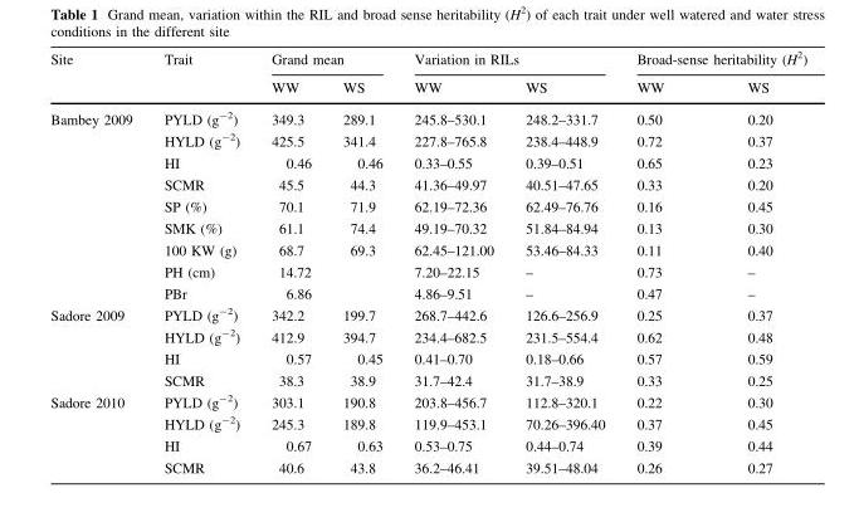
<table><thead><tr><td rowspan="2">Site</td><td rowspan="2">Trait</td><td colspan="2">Grand mean</td><td colspan="2">Variation in RILs</td><td colspan="2">Broad-sense heritability (H<sup>2</sup>)</td></tr><tr><td>WW</td><td>WS</td><td>WW</td><td>WS</td><td>WW</td><td>WS</td></tr></thead><tbody><tr><td rowspan="9">Bambey 2009</td><td>PYLD (g<sup>-2</sup>)</td><td>349.3</td><td>289.1</td><td>245.8–530.1</td><td>248.2–331.7</td><td>0.50</td><td>0.20</td></tr><tr><td>HYLD (g<sup>-2</sup>)</td><td>425.5</td><td>341.4</td><td>227.8–765.8</td><td>238.4–448.9</td><td>0.72</td><td>0.37</td></tr><tr><td>HI</td><td>0.46</td><td>0.46</td><td>0.33–0.55</td><td>0.39–0.51</td><td>0.65</td><td>0.23</td></tr><tr><td>SCMR</td><td>45.5</td><td>44.3</td><td>41.36–49.97</td><td>40.51–47.65</td><td>0.33</td><td>0.20</td></tr><tr><td>SP (%)</td><td>70.1</td><td>71.9</td><td>62.19–72.36</td><td>62.49–76.76</td><td>0.16</td><td>0.45</td></tr><tr><td>SMK (%)</td><td>61.1</td><td>74.4</td><td>49.19–70.32</td><td>51.84–84.94</td><td>0.13</td><td>0.30</td></tr><tr><td>100 KW (g)</td><td>68.7</td><td>69.3</td><td>62.45–121.00</td><td>53.46–84.33</td><td>0.11</td><td>0.40</td></tr><tr><td>PH (cm)</td><td>14.72</td><td></td><td>7.20–22.15</td><td>–</td><td>0.73</td><td>–</td></tr><tr><td>PBr</td><td>6.86</td><td></td><td>4.86–9.51</td><td>–</td><td>0.47</td><td>–</td></tr><tr><td rowspan="4">Sadore 2009</td><td>PYLD (g<sup>-2</sup>)</td><td>342.2</td><td>199.7</td><td>268.7–442.6</td><td>126.6–256.9</td><td>0.25</td><td>0.37</td></tr><tr><td>HYLD (g<sup>-2</sup>)</td><td>412.9</td><td>394.7</td><td>234.4–682.5</td><td>231.5–554.4</td><td>0.62</td><td>0.48</td></tr><tr><td>HI</td><td>0.57</td><td>0.45</td><td>0.41–0.70</td><td>0.18–0.66</td><td>0.57</td><td>0.59</td></tr><tr><td>SCMR</td><td>38.3</td><td>38.9</td><td>31.7–42.4</td><td>31.7–38.9</td><td>0.33</td><td>0.25</td></tr><tr><td rowspan="4">Sadore 2010</td><td>PYLD (g<sup>-2</sup>)</td><td>303.1</td><td>190.8</td><td>203.8–456.7</td><td>112.8–320.1</td><td>0.22</td><td>0.30</td></tr><tr><td>HYLD (g<sup>-2</sup>)</td><td>245.3</td><td>189.8</td><td>119.9–453.1</td><td>70.26–396.40</td><td>0.37</td><td>0.45</td></tr><tr><td>HI</td><td>0.67</td><td>0.63</td><td>0.53–0.75</td><td>0.44–0.74</td><td>0.39</td><td>0.44</td></tr><tr><td>SCMR</td><td>40.6</td><td>43.8</td><td>36.2–46.41</td><td>39.51–48.04</td><td>0.26</td><td>0.27</td></tr></tbody></table>